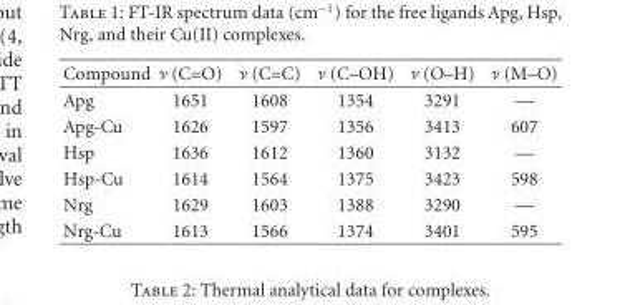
<table><thead><tr><td>Compound</td><td>ν (C=O)</td><td>ν (C=C)</td><td>ν (C–OH)</td><td>ν (O–H)</td><td>ν (M–O)</td></tr></thead><tbody><tr><td>Apg</td><td>1651</td><td>1608</td><td>1354</td><td>3291</td><td>—</td></tr><tr><td>Apg-Cu</td><td>1626</td><td>1597</td><td>1356</td><td>3413</td><td>607</td></tr><tr><td>Hsp</td><td>1636</td><td>1612</td><td>1360</td><td>3132</td><td>—</td></tr><tr><td>Hsp-Cu</td><td>1614</td><td>1564</td><td>1375</td><td>3423</td><td>598</td></tr><tr><td>Nrg</td><td>1629</td><td>1603</td><td>1388</td><td>3290</td><td>—</td></tr><tr><td>Nrg-Cu</td><td>1613</td><td>1566</td><td>1374</td><td>3401</td><td>595</td></tr></tbody></table>